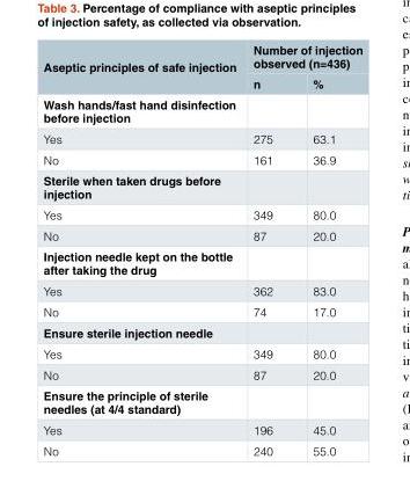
<table><thead><tr><td rowspan="2">Aseptic principles of safe injection</td><td colspan="2">Number of injection observed (n=436)</td></tr><tr><td>n</td><td>%</td></tr></thead><tbody><tr><td colspan="3">Wash hands/fast hand disinfection before injection</td></tr><tr><td>Yes</td><td>275</td><td>63.1</td></tr><tr><td>No</td><td>161</td><td>36.9</td></tr><tr><td colspan="3">Sterile when taken drugs before injection</td></tr><tr><td>Yes</td><td>349</td><td>80.0</td></tr><tr><td>No</td><td>87</td><td>20.0</td></tr><tr><td colspan="3">Injection needle kept on the bottle after taking the drug</td></tr><tr><td>Yes</td><td>362</td><td>83.0</td></tr><tr><td>No</td><td>74</td><td>17.0</td></tr><tr><td colspan="3">Ensure sterile injection needle</td></tr><tr><td>Yes</td><td>349</td><td>80.0</td></tr><tr><td>No</td><td>87</td><td>20.0</td></tr><tr><td colspan="3">Ensure the principle of sterile needles (at 4/4 standard)</td></tr><tr><td>Yes</td><td>196</td><td>45.0</td></tr><tr><td>No</td><td>240</td><td>55.0</td></tr></tbody></table>